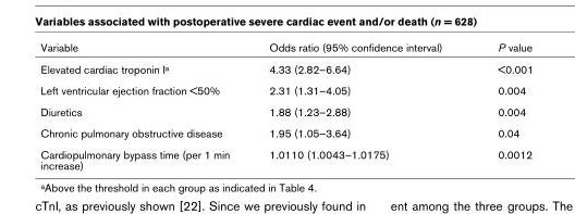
<table><thead><tr><td>Variable</td><td>Odds ratio (95% confidence interval)</td><td>P value</td></tr></thead><tbody><tr><td>Elevated cardiac troponin I<sup>a</sup></td><td>4.33 (2.82–6.64)</td><td>&lt;0.001</td></tr><tr><td>Left ventricular ejection fraction &lt;50%</td><td>2.31 (1.31–4.05)</td><td>0.004</td></tr><tr><td>Diuretics</td><td>1.88 (1.23–2.88)</td><td>0.004</td></tr><tr><td>Chronic pulmonary obstructive disease</td><td>1.95 (1.05–3.64)</td><td>0.04</td></tr><tr><td>Cardiopulmonary bypass time (per 1 min increase)</td><td>1.0110 (1.0043–1.0175)</td><td>0.0012</td></tr></tbody></table>